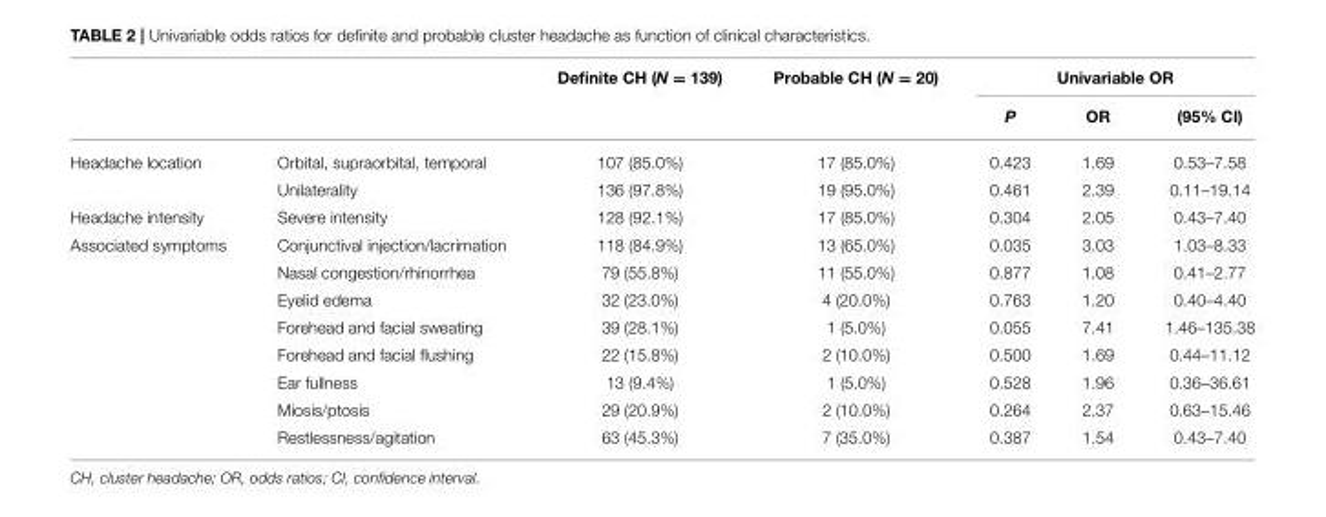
<table><thead><tr><td rowspan="2"></td><td rowspan="2"></td><td rowspan="2">Definite CH (N = 139)</td><td rowspan="2">Probable CH (N = 20)</td><td colspan="3">Univariable OR</td></tr><tr><td>P</td><td>OR</td><td>(95% CI)</td></tr></thead><tbody><tr><td rowspan="2">Headache location</td><td>Orbital, supraorbital, temporal</td><td>107 (85.0%)</td><td>17 (85.0%)</td><td>0.423</td><td>1.69</td><td>0.53–7.58</td></tr><tr><td>Unilaterality</td><td>136 (97.8%)</td><td>19 (95.0%)</td><td>0.461</td><td>2.39</td><td>0.11–19.14</td></tr><tr><td>Headache intensity</td><td>Severe intensity</td><td>128 (92.1%)</td><td>17 (85.0%)</td><td>0.304</td><td>2.05</td><td>0.43–7.40</td></tr><tr><td rowspan="8">Associated symptoms</td><td>Conjunctival injection/lacrimation</td><td>118 (84.9%)</td><td>13 (65.0%)</td><td>0.035</td><td>3.03</td><td>1.03–8.33</td></tr><tr><td>Nasal congestion/rhinorrhea</td><td>79 (55.8%)</td><td>11 (55.0%)</td><td>0.877</td><td>1.08</td><td>0.41–2.77</td></tr><tr><td>Eyelid edema</td><td>32 (23.0%)</td><td>4 (20.0%)</td><td>0.763</td><td>1.20</td><td>0.40–4.40</td></tr><tr><td>Forehead and facial sweating</td><td>39 (28.1%)</td><td>1 (5.0%)</td><td>0.055</td><td>7.41</td><td>1.46–135.38</td></tr><tr><td>Forehead and facial flushing</td><td>22 (15.8%)</td><td>2 (10.0%)</td><td>0.500</td><td>1.69</td><td>0.44–11.12</td></tr><tr><td>Ear fullness</td><td>13 (9.4%)</td><td>1 (5.0%)</td><td>0.528</td><td>1.96</td><td>0.36–36.61</td></tr><tr><td>Miosis/ptosis</td><td>29 (20.9%)</td><td>2 (10.0%)</td><td>0.264</td><td>2.37</td><td>0.63–15.46</td></tr><tr><td>Restlessness/agitation</td><td>63 (45.3%)</td><td>7 (35.0%)</td><td>0.387</td><td>1.54</td><td>0.43–7.40</td></tr></tbody></table>